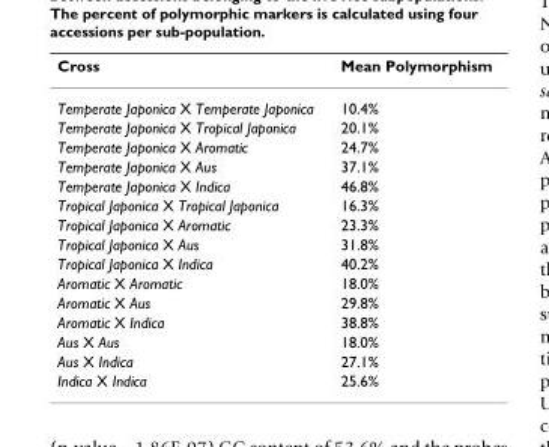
<table><thead><tr><td>Cross</td><td>Mean Polymorphism</td></tr></thead><tbody><tr><td>Temperate Japonica X Temperate Japonica</td><td>10.4%</td></tr><tr><td>Temperate Japonica X Tropical Japonica</td><td>20.1%</td></tr><tr><td>Temperate Japonica X Aromatic</td><td>24.7%</td></tr><tr><td>Temperate Japonica X Aus</td><td>37.1%</td></tr><tr><td>Temperate Japonica X Indica</td><td>46.8%</td></tr><tr><td>Tropical Japonica X Tropical Japonica</td><td>16.3%</td></tr><tr><td>Tropical Japonica X Aromatic</td><td>23.3%</td></tr><tr><td>Tropical Japonica X Aus</td><td>31.8%</td></tr><tr><td>Tropical Japonica X Indica</td><td>40.2%</td></tr><tr><td>Aromatic X Aromatic</td><td>18.0%</td></tr><tr><td>Aromatic X Aus</td><td>29.8%</td></tr><tr><td>Aromatic X Indica</td><td>38.8%</td></tr><tr><td>Aus X Aus</td><td>18.0%</td></tr><tr><td>Aus X Indica</td><td>27.1%</td></tr><tr><td>Indica X Indica</td><td>25.6%</td></tr></tbody></table>